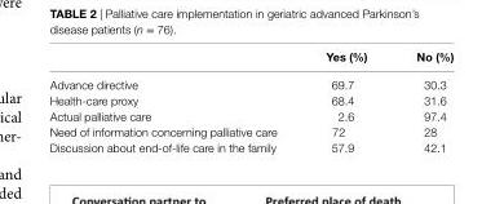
<table><thead><tr><td></td><td>Yes (%)</td><td>no (%)</td></tr></thead><tbody><tr><td>Advance directive</td><td>69.7</td><td>30.3</td></tr><tr><td>Health-care proxy</td><td>68.4</td><td>31.6</td></tr><tr><td>Actual palliative care</td><td>2.6</td><td>97.4</td></tr><tr><td>Need of information concerning palliative care</td><td>72</td><td>28</td></tr><tr><td>Discussion about end-of-life care in the family</td><td>57.9</td><td>42.1</td></tr></tbody></table>